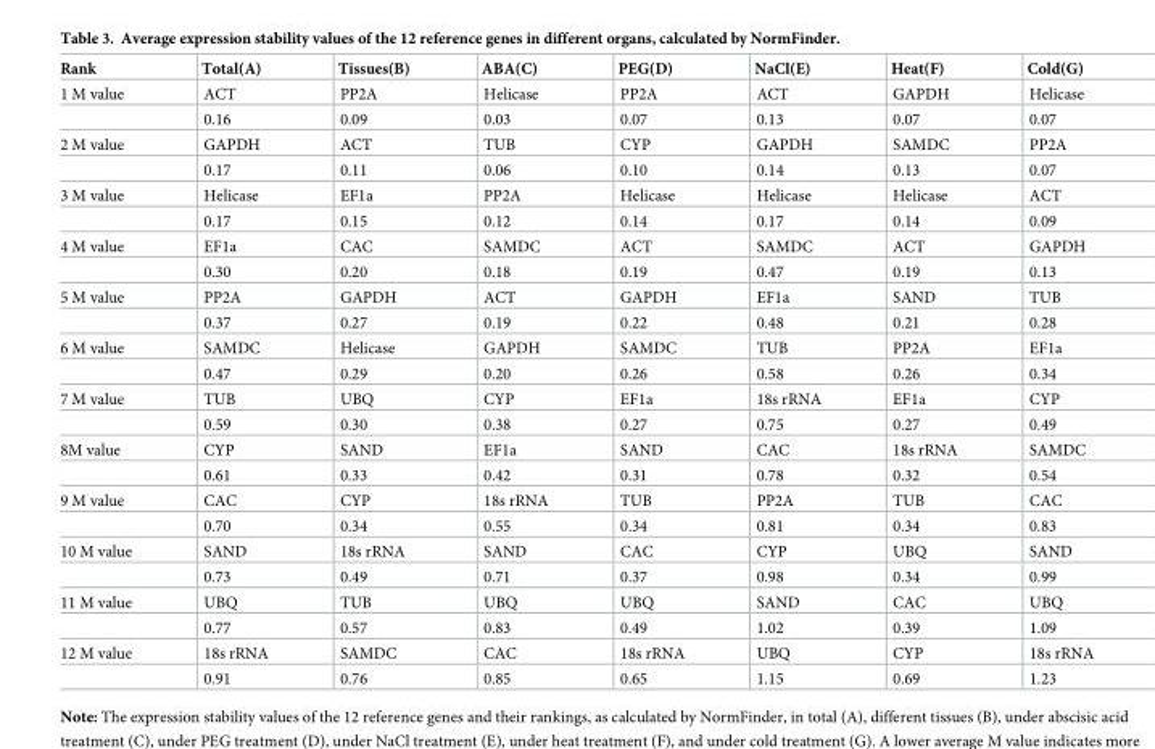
<table><thead><tr><td>Rank</td><td>Total(A)</td><td>Tissues(B)</td><td>ABA(C)</td><td>PEG(D)</td><td>NaCl(E)</td><td>Heat(F)</td><td>Cold(G)</td></tr></thead><tbody><tr><td rowspan="2">1 M value</td><td>ACT</td><td>PP2A</td><td>Helicase</td><td>PP2A</td><td>ACT</td><td>GAPDH</td><td>Helicase</td></tr><tr><td>0.16</td><td>0.09</td><td>0.03</td><td>0.07</td><td>0.13</td><td>0.07</td><td>0.07</td></tr><tr><td rowspan="2">2 M value</td><td>GAPDH</td><td>ACT</td><td>TUB</td><td>CYP</td><td>GAPDH</td><td>SAMDC</td><td>PP2A</td></tr><tr><td>0.17</td><td>0.11</td><td>0.06</td><td>0.10</td><td>0.14</td><td>0.13</td><td>0.07</td></tr><tr><td rowspan="2">3 M value</td><td>Helicase</td><td>EF1a</td><td>PP2A</td><td>Helicase</td><td>Helicase</td><td>Helicase</td><td>ACT</td></tr><tr><td>0.17</td><td>0.15</td><td>0.12</td><td>0.14</td><td>0.17</td><td>0.14</td><td>0.09</td></tr><tr><td rowspan="2">4 M value</td><td>EF1a</td><td>CAC</td><td>SAMDC</td><td>ACT</td><td>SAMDC</td><td>ACT</td><td>GAPDH</td></tr><tr><td>0.30</td><td>0.20</td><td>0.18</td><td>0.19</td><td>0.47</td><td>0.19</td><td>0.13</td></tr><tr><td rowspan="2">5 M value</td><td>PP2A</td><td>GAPDH</td><td>ACT</td><td>GAPDH</td><td>EF1a</td><td>SAND</td><td>TUB</td></tr><tr><td>0.37</td><td>0.27</td><td>0.19</td><td>0.22</td><td>0.48</td><td>0.21</td><td>0.28</td></tr><tr><td rowspan="2">6 M value</td><td>SAMDC</td><td>Helicase</td><td>GAPDH</td><td>SAMDC</td><td>TUB</td><td>PP2A</td><td>EF1a</td></tr><tr><td>0.47</td><td>0.29</td><td>0.20</td><td>0.26</td><td>0.58</td><td>0.26</td><td>0.34</td></tr><tr><td rowspan="2">7 M value</td><td>TUB</td><td>UBQ</td><td>CYP</td><td>EF1a</td><td>18s rRNA</td><td>EF1a</td><td>CYP</td></tr><tr><td>0.59</td><td>0.30</td><td>0.38</td><td>0.27</td><td>0.75</td><td>0.27</td><td>0.49</td></tr><tr><td rowspan="2">8M value</td><td>CYP</td><td>SAND</td><td>EF1a</td><td>SAND</td><td>CAC</td><td>18s rRNA</td><td>SAMDC</td></tr><tr><td>0.61</td><td>0.33</td><td>0.42</td><td>0.31</td><td>0.78</td><td>0.32</td><td>0.54</td></tr><tr><td rowspan="2">9 M value</td><td>CAC</td><td>CYP</td><td>18s rRNA</td><td>TUB</td><td>PP2A</td><td>TUB</td><td>CAC</td></tr><tr><td>0.70</td><td>0.34</td><td>0.55</td><td>0.34</td><td>0.81</td><td>0.34</td><td>0.83</td></tr><tr><td rowspan="2">10 M value</td><td>SAND</td><td>18s rRNA</td><td>SAND</td><td>CAC</td><td>CYP</td><td>UBQ</td><td>SAND</td></tr><tr><td>0.73</td><td>0.49</td><td>0.71</td><td>0.37</td><td>0.98</td><td>0.34</td><td>0.99</td></tr><tr><td rowspan="2">11 M value</td><td>UBQ</td><td>TUB</td><td>UBQ</td><td>UBQ</td><td>SAND</td><td>CAC</td><td>UBQ</td></tr><tr><td>0.77</td><td>0.57</td><td>0.83</td><td>0.49</td><td>1.02</td><td>0.39</td><td>1.09</td></tr><tr><td rowspan="2">12 M value</td><td>18s rRNA</td><td>SAMDC</td><td>CAC</td><td>18s rRNA</td><td>UBQ</td><td>CYP</td><td>18s rRNA</td></tr><tr><td>0.91</td><td>0.76</td><td>0.85</td><td>0.65</td><td>1.15</td><td>0.69</td><td>1.23</td></tr></tbody></table>